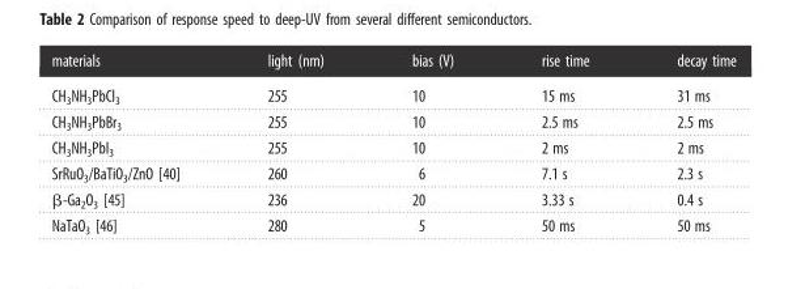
<table><thead><tr><td>materials</td><td>light (nm)</td><td>bias (V)</td><td>rise time</td><td>decay time</td></tr></thead><tbody><tr><td>CH<sub>3</sub>NH<sub>3</sub>PbCl<sub>3</sub></td><td>255</td><td>10</td><td>15 ms</td><td>31 ms</td></tr><tr><td>CH<sub>3</sub>NH<sub>3</sub>PbBr<sub>3</sub></td><td>255</td><td>10</td><td>2.5 ms</td><td>2.5 ms</td></tr><tr><td>CH<sub>3</sub>NH<sub>3</sub>PbI<sub>3</sub></td><td>255</td><td>10</td><td>2 ms</td><td>2 ms</td></tr><tr><td>SrRuO<sub>3</sub>/BaTiO<sub>3</sub>/ZnO [40]</td><td>260</td><td>6</td><td>7.1 s</td><td>2.3 s</td></tr><tr><td>β-Ga<sub>2</sub>O<sub>3</sub> [45]</td><td>236</td><td>20</td><td>3.33 s</td><td>0.4 s</td></tr><tr><td>NaTaO<sub>3</sub> [46]</td><td>280</td><td>5</td><td>50 ms</td><td>50 ms</td></tr></tbody></table>